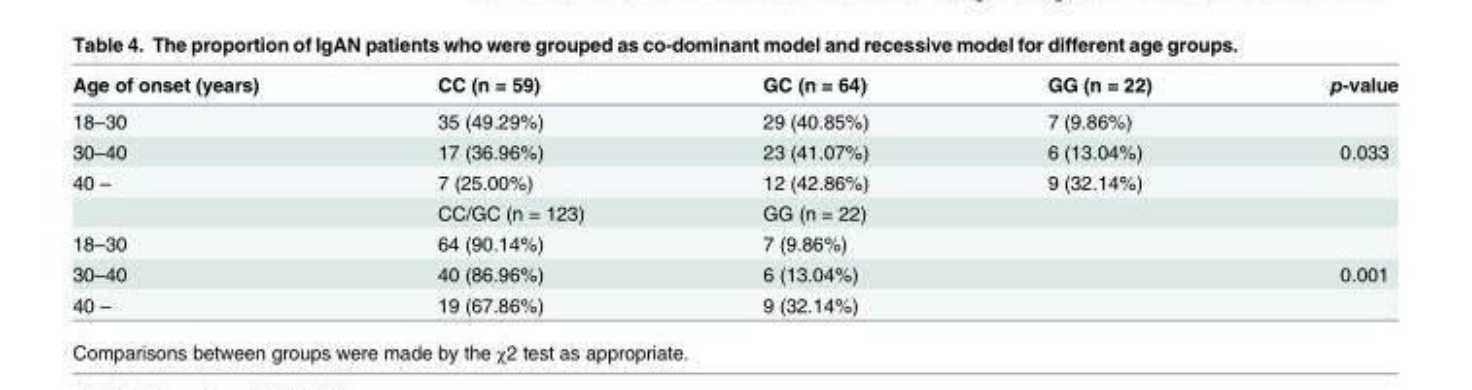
<table><thead><tr><td>Age of onset (years)</td><td>CC (n = 59)</td><td>GC (n = 64)</td><td>GG (n = 22)</td><td>p-value</td></tr></thead><tbody><tr><td>18–30</td><td>35 (49.29%)</td><td>29 (40.85%)</td><td>7 (9.86%)</td><td></td></tr><tr><td>30–40</td><td>17 (36.96%)</td><td>23 (41.07%)</td><td>6 (13.04%)</td><td>0.033</td></tr><tr><td rowspan="2">40 –</td><td>7 (25.00%)</td><td>12 (42.86%)</td><td>9 (32.14%)</td><td></td></tr><tr><td>CC/GC (n = 123)</td><td>GG (n = 22)</td><td></td><td></td></tr><tr><td>18–30</td><td>64 (90.14%)</td><td>7 (9.86%)</td><td></td><td></td></tr><tr><td>30–40</td><td>40 (86.96%)</td><td>6 (13.04%)</td><td></td><td>0.001</td></tr><tr><td>40 –</td><td>19 (67.86%)</td><td>9 (32.14%)</td><td></td><td></td></tr></tbody></table>